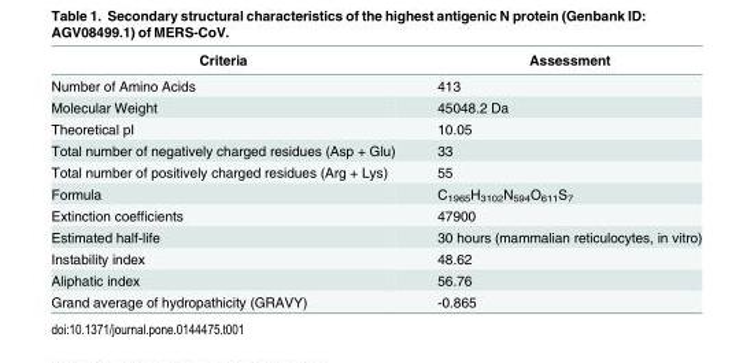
<table><thead><tr><td>Criteria</td><td>Assessment</td></tr></thead><tbody><tr><td>Number of Amino Acids</td><td>413</td></tr><tr><td>Molecular Weight</td><td>45048.2 Da</td></tr><tr><td>Theoretical pI</td><td>10.05</td></tr><tr><td>Total number of negatively charged residues (Asp + Glu)</td><td>33</td></tr><tr><td>Total number of positively charged residues (Arg + Lys)</td><td>55</td></tr><tr><td>Formula</td><td>C<sub>1965</sub>H<sub>3102</sub>N<sub>594</sub>O<sub>611</sub>S<sub>7</sub></td></tr><tr><td>Extinction coefficients</td><td>47900</td></tr><tr><td>Estimated half-life</td><td>30 hours (mammalian reticulocytes, in vitro)</td></tr><tr><td>Instability index</td><td>48.62</td></tr><tr><td>Aliphatic index</td><td>56.76</td></tr><tr><td>Grand average of hydropathicity (GRAVY)</td><td>-0.865</td></tr></tbody></table>